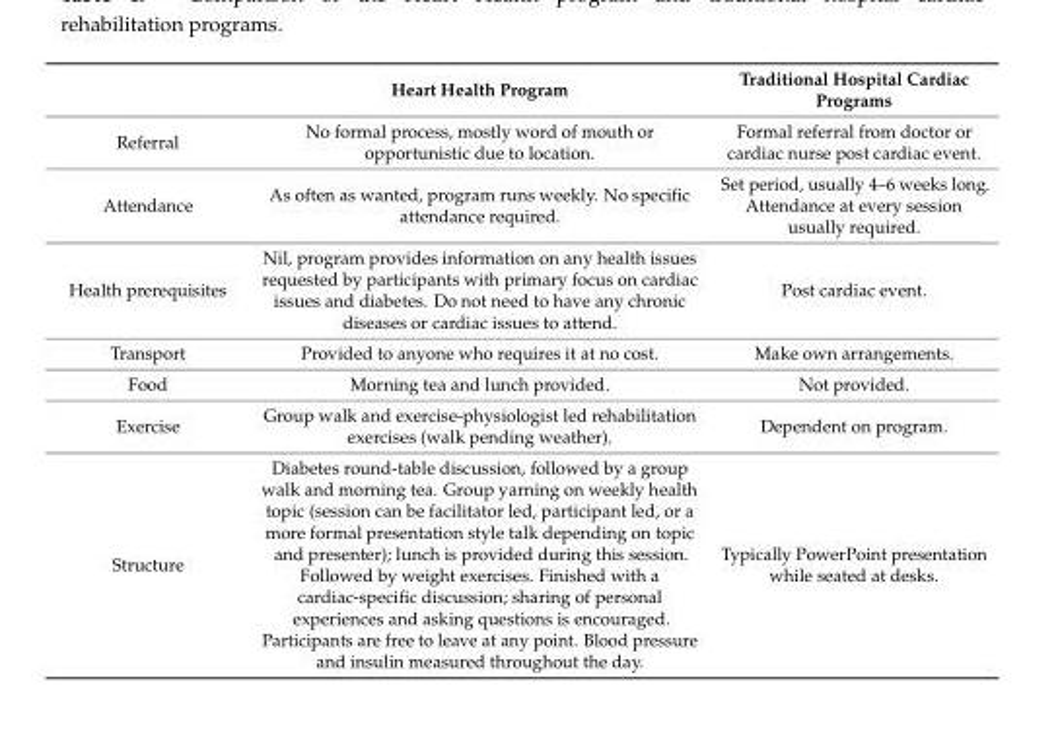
<table><thead><tr><td></td><td>Heart Health Program</td><td>Traditional Hospital Cardiac Programs</td></tr></thead><tbody><tr><td>Referral</td><td>No formal process, mostly word of mouth or opportunistic due to location.</td><td>Formal referral from doctor or cardiac nurse post cardiac event.</td></tr><tr><td>Attendance</td><td>As often as wanted, program runs weekly. No specific attendance required.</td><td>Set period, usually 4–6 weeks long. Attendance at every session usually required.</td></tr><tr><td>Health prerequisites</td><td>Nil, program provides information on any health issues requested by participants with primary focus on cardiac issues and diabetes. Do not need to have any chronic diseases or cardiac issues to attend.</td><td>Post cardiac event.</td></tr><tr><td>Transport</td><td>Provided to anyone who requires it at no cost.</td><td>Make own arrangements.</td></tr><tr><td>Food</td><td>Morning tea and lunch provided.</td><td>Not provided.</td></tr><tr><td>Exercise</td><td>Group walk and exercise-physiologist led rehabilitation exercises (walk pending weather).</td><td>Dependent on program.</td></tr><tr><td>Structure</td><td>Diabetes round-table discussion, followed by a group walk and morning tea. Group yarning on weekly health topic (session can be facilitator led, participant led, or a more formal presentation style talk depending on topic and presenter); lunch is provided during this session. Followed by weight exercises. Finished with a cardiac-specific discussion; sharing of personal experiences and asking questions is encouraged. Participants are free to leave at any point. Blood pressure and insulin measured throughout the day.</td><td>Typically PowerPoint presentation while seated at desks.</td></tr></tbody></table>